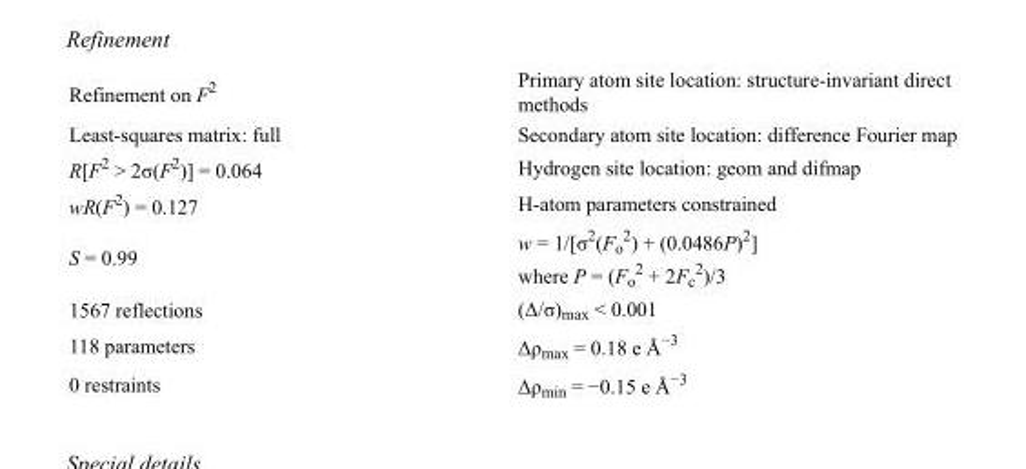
<table><tbody><tr><td>Refinement on F<sup>2</sup></td><td>Primary atom site location: structure-invariant direct methods</td></tr><tr><td>Least-squares matrix: full</td><td>Secondary atom site location: difference Fourier map</td></tr><tr><td>R[F<sup>2</sup> &gt; 2σ(F<sup>2</sup>)] = 0.064</td><td>Hydrogen site location: geom and difmap</td></tr><tr><td>wR(F<sup>2</sup>) = 0.127</td><td>H-atom parameters constrained</td></tr><tr><td>S = 0.99</td><td>w = 1/[σ<sup>2</sup>(F<sub>o</sub> <sup>2</sup>) + (0.0486P)<sup>2</sup>] where P = (F<sub>o</sub> <sup>2</sup> + 2F<sub>c</sub> <sup>2</sup>)/3</td></tr><tr><td>1567 reflections</td><td>(Δ/σ)<sub>max</sub> &lt; 0.001</td></tr><tr><td>118 parameters</td><td>Δρ<sub>max</sub> = 0.18 e Å<sup>−3</sup></td></tr><tr><td>0 restraints</td><td>Δρ<sub>min</sub> = −0.15 e Å<sup>−3</sup></td></tr></tbody></table>